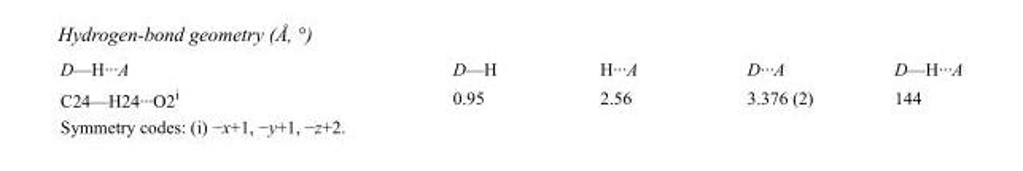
<table><tbody><tr><td>D—H···A</td><td>D—H</td><td>H···A</td><td>D···A</td><td>D—H···A</td></tr><tr><td>C24—H24···O2<sup>i</sup></td><td>0.95</td><td>2.56</td><td>3.376 (2)</td><td>144</td></tr></tbody></table>